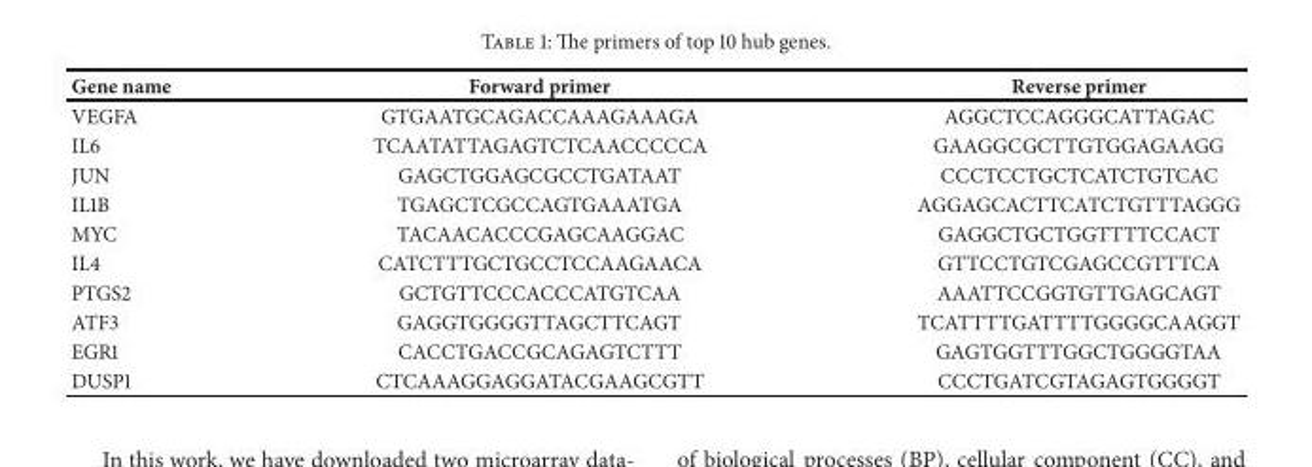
<table><thead><tr><td>Gene name</td><td>Forward primer</td><td>Reverse primer</td></tr></thead><tbody><tr><td>VEGFA</td><td>GTGAATGCAGACCAAAGAAAGA</td><td>AGGCTCCAGGGCATTAGAC</td></tr><tr><td>IL6</td><td>TCAATATTAGAGTCTCAACCCCCA</td><td>GAAGGCGCTTGTGGAGAAGG</td></tr><tr><td>JUN</td><td>GAGCTGGAGCGCCTGATAAT</td><td>CCCTCCTGCTCATCTGTCAC</td></tr><tr><td>IL1B</td><td>TGAGCTCGCCAGTGAAATGA</td><td>AGGAGCACTTCATCTGTTTAGGG</td></tr><tr><td>MYC</td><td>TACAACACCCGAGCAAGGAC</td><td>GAGGCTGCTGGTTTTCCACT</td></tr><tr><td>IL4</td><td>CATCTTTGCTGCCTCCAAGAACA</td><td>GTTCCTGTCGAGCCGTTTCA</td></tr><tr><td>PTGS2</td><td>GCTGTTCCCACCCATGTCAA</td><td>AAATTCCGGTGTTGAGCAGT</td></tr><tr><td>ATF3</td><td>GAGGTGGGGTTAGCTTCAGT</td><td>TCATTTTGATTTTGGGGCAAGGT</td></tr><tr><td>EGR1</td><td>CACCTGACCGCAGAGTCTTT</td><td>GAGTGGTTTGGCTGGGGTAA</td></tr><tr><td>DUSP1</td><td>CTCAAAGGAGGATACGAAGCGTT</td><td>CCCTGATCGTAGAGTGGGGT</td></tr></tbody></table>